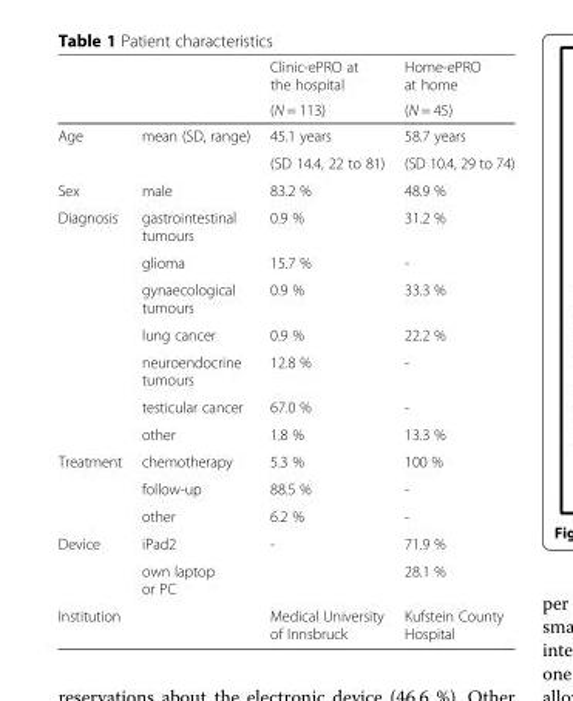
<table><thead><tr><td rowspan="2"></td><td rowspan="2"></td><td rowspan="2">Clinic-ePRO at the hospital (N = 113)</td><td rowspan="2">Home-ePRO at home (N = 45)</td></tr><tr></tr></thead><tbody><tr><td rowspan="2">Age</td><td rowspan="2">mean (SD, range)</td><td>45.1 years</td><td>58.7 years</td></tr><tr><td>(SD 14.4, 22 to 81)</td><td>(SD 10.4, 29 to 74)</td></tr><tr><td>Sex</td><td>male</td><td>83.2 %</td><td>48.9 %</td></tr><tr><td rowspan="7">Diagnosis</td><td>gastrointestinal tumours</td><td>0.9 %</td><td>31.2 %</td></tr><tr><td>glioma</td><td>15.7 %</td><td>-</td></tr><tr><td>gynaecological tumours</td><td>0.9 %</td><td>33.3 %</td></tr><tr><td>lung cancer</td><td>0.9 %</td><td>22.2 %</td></tr><tr><td>neuroendocrine tumours</td><td>12.8 %</td><td>-</td></tr><tr><td>testicular cancer</td><td>67.0 %</td><td>-</td></tr><tr><td>other</td><td>1.8 %</td><td>13.3 %</td></tr><tr><td rowspan="3">Treatment</td><td>chemotherapy</td><td>5.3 %</td><td>100 %</td></tr><tr><td>follow-up</td><td>88.5 %</td><td>-</td></tr><tr><td>other</td><td>6.2 %</td><td>-</td></tr><tr><td rowspan="2">Device</td><td>iPad2</td><td rowspan="2">-</td><td>71.9 %</td></tr><tr><td>own laptop or PC</td><td>28.1 %</td></tr><tr><td>Institution</td><td></td><td>Medical University of Innsbruck</td><td>Kufstein County Hospital</td></tr></tbody></table>